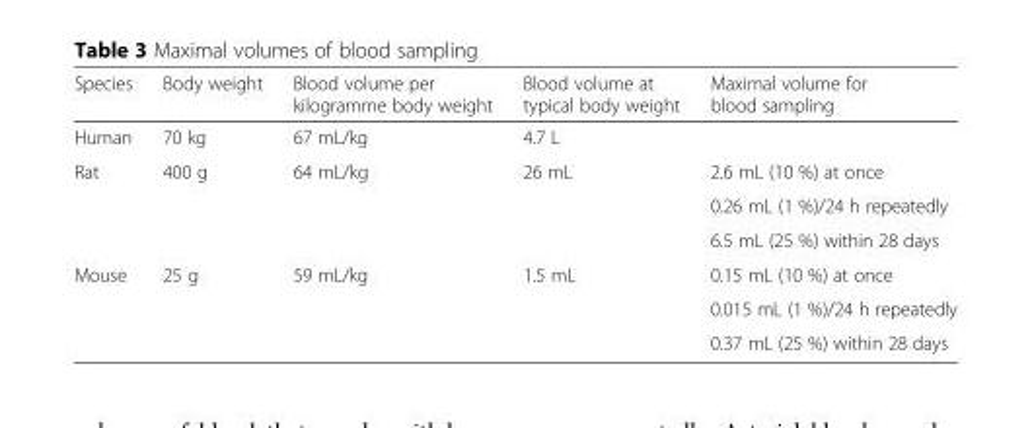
<table><thead><tr><td>Species</td><td>Body weight</td><td>Blood volume per kilogramme body weight</td><td>Blood volume at typical body weight</td><td>Maximal volume for blood sampling</td></tr></thead><tbody><tr><td>Human</td><td>70 kg</td><td>67 mL/kg</td><td>4.7 L</td><td></td></tr><tr><td rowspan="3">Rat</td><td rowspan="3">400 g</td><td rowspan="3">64 mL/kg</td><td rowspan="3">26 mL</td><td>2.6 mL (10 %) at once</td></tr><tr><td>0.26 mL (1 %)/24 h repeatedly</td></tr><tr><td>6.5 mL (25 %) within 28 days</td></tr><tr><td rowspan="3">Mouse</td><td rowspan="3">25 g</td><td rowspan="3">59 mL/kg</td><td rowspan="3">1.5 mL</td><td>0.15 mL (10 %) at once</td></tr><tr><td>0.015 mL (1 %)/24 h repeatedly</td></tr><tr><td>0.37 mL (25 %) within 28 days</td></tr></tbody></table>